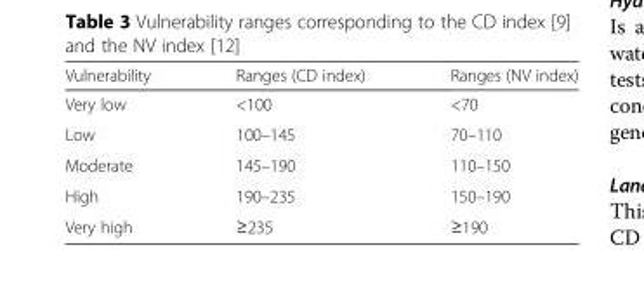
<table><thead><tr><td>Vulnerability</td><td>Ranges (CD index)</td><td>Ranges (NV index)</td></tr></thead><tbody><tr><td>Very low</td><td>&lt;100</td><td>&lt;70</td></tr><tr><td>Low</td><td>100–145</td><td>70–110</td></tr><tr><td>Moderate</td><td>145–190</td><td>110–150</td></tr><tr><td>High</td><td>190–235</td><td>150–190</td></tr><tr><td>Very high</td><td>≥235</td><td>≥190</td></tr></tbody></table>